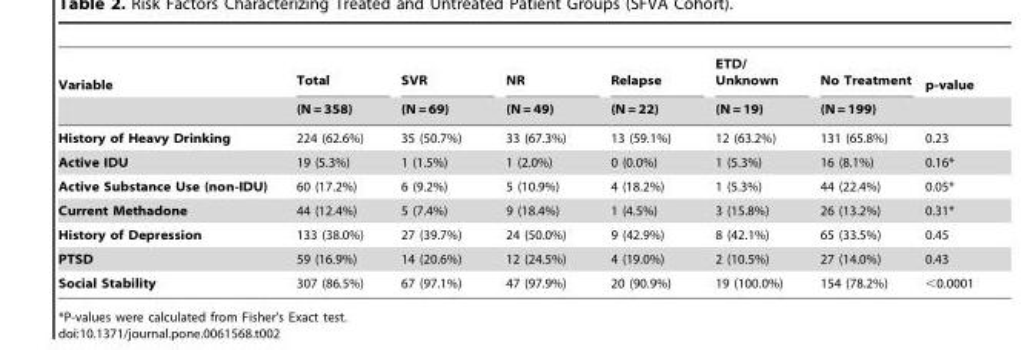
<table><thead><tr><td rowspan="2">Variable</td><td rowspan="2">Total (N = 358)</td><td rowspan="2">SVR (N = 69)</td><td rowspan="2">NR (N = 49)</td><td rowspan="2">Relapse (N = 22)</td><td rowspan="2">ETD/ Unknown (N = 19)</td><td rowspan="2">No Treatment (N = 199)</td><td rowspan="2">p-value</td></tr><tr></tr></thead><tbody><tr><td>History of Heavy Drinking</td><td>224 (62.6%)</td><td>35 (50.7%)</td><td>33 (67.3%)</td><td>13 (59.1%)</td><td>12 (63.2%)</td><td>131 (65.8%)</td><td>0.23</td></tr><tr><td>Active IDU</td><td>19 (5.3%)</td><td>1 (1.5%)</td><td>1 (2.0%)</td><td>0 (0.0%)</td><td>1 (5.3%)</td><td>16 (8.1%)</td><td>0.16*</td></tr><tr><td>Active Substance Use (non-IDU)</td><td>60 (17.2%)</td><td>6 (9.2%)</td><td>5 (10.9%)</td><td>4 (18.2%)</td><td>1 (5.3%)</td><td>44 (22.4%)</td><td>0.05*</td></tr><tr><td>Current Methadone</td><td>44 (12.4%)</td><td>5 (7.4%)</td><td>9 (18.4%)</td><td>1 (4.5%)</td><td>3 (15.8%)</td><td>26 (13.2%)</td><td>0.31*</td></tr><tr><td>History of Depression</td><td>133 (38.0%)</td><td>27 (39.7%)</td><td>24 (50.0%)</td><td>9 (42.9%)</td><td>8 (42.1%)</td><td>65 (33.5%)</td><td>0.45</td></tr><tr><td>PTSD</td><td>59 (16.9%)</td><td>14 (20.6%)</td><td>12 (24.5%)</td><td>4 (19.0%)</td><td>2 (10.5%)</td><td>27 (14.0%)</td><td>0.43</td></tr><tr><td>Social Stability</td><td>307 (86.5%)</td><td>67 (97.1%)</td><td>47 (97.9%)</td><td>20 (90.9%)</td><td>19 (100.0%)</td><td>154 (78.2%)</td><td>&lt;0.0001</td></tr></tbody></table>